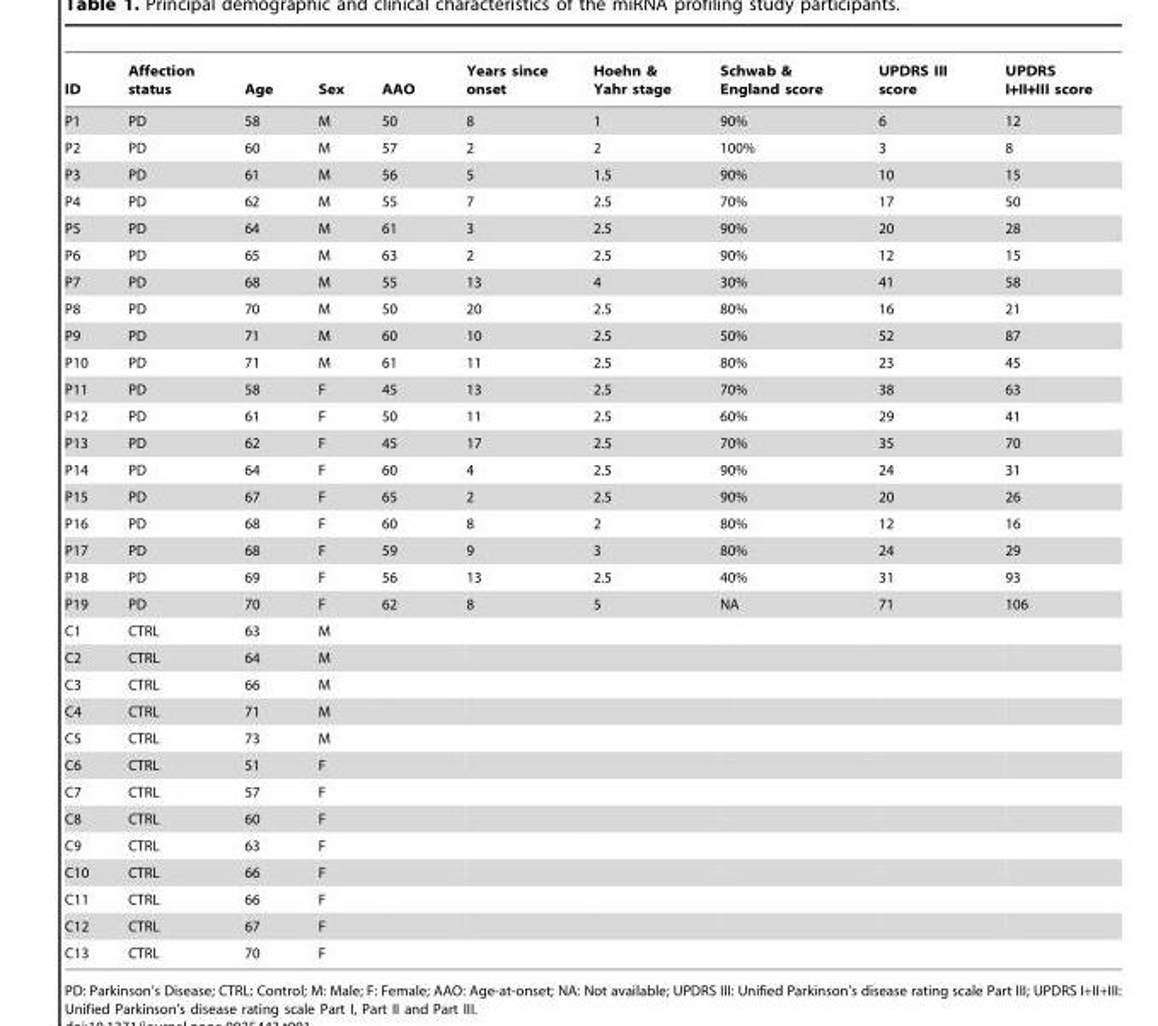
<table><thead><tr><td>ID</td><td>Affection status</td><td>Age</td><td>Sex</td><td>AAO</td><td>Years since onset</td><td>Hoehn &amp; Yahr stage</td><td>Schwab &amp; England score</td><td>UPDRS III score</td><td>UPDRS I+II+III score</td></tr></thead><tbody><tr><td>P1</td><td>PD</td><td>58</td><td>M</td><td>50</td><td>8</td><td>1</td><td>90%</td><td>6</td><td>12</td></tr><tr><td>P2</td><td>PD</td><td>60</td><td>M</td><td>57</td><td>2</td><td>2</td><td>100%</td><td>3</td><td>8</td></tr><tr><td>P3</td><td>PD</td><td>61</td><td>M</td><td>56</td><td>5</td><td>1.5</td><td>90%</td><td>10</td><td>15</td></tr><tr><td>P4</td><td>PD</td><td>62</td><td>M</td><td>55</td><td>7</td><td>2.5</td><td>70%</td><td>17</td><td>50</td></tr><tr><td>P5</td><td>PD</td><td>64</td><td>M</td><td>61</td><td>3</td><td>2.5</td><td>90%</td><td>20</td><td>28</td></tr><tr><td>P6</td><td>PD</td><td>65</td><td>M</td><td>63</td><td>2</td><td>2.5</td><td>90%</td><td>12</td><td>15</td></tr><tr><td>P7</td><td>PD</td><td>68</td><td>M</td><td>55</td><td>13</td><td>4</td><td>30%</td><td>41</td><td>58</td></tr><tr><td>P8</td><td>PD</td><td>70</td><td>M</td><td>50</td><td>20</td><td>2.5</td><td>80%</td><td>16</td><td>21</td></tr><tr><td>P9</td><td>PD</td><td>71</td><td>M</td><td>60</td><td>10</td><td>2.5</td><td>50%</td><td>52</td><td>87</td></tr><tr><td>P10</td><td>PD</td><td>71</td><td>M</td><td>61</td><td>11</td><td>2.5</td><td>80%</td><td>23</td><td>45</td></tr><tr><td>P11</td><td>PD</td><td>58</td><td>F</td><td>45</td><td>13</td><td>2.5</td><td>70%</td><td>38</td><td>63</td></tr><tr><td>P12</td><td>PD</td><td>61</td><td>F</td><td>50</td><td>11</td><td>2.5</td><td>60%</td><td>29</td><td>41</td></tr><tr><td>P13</td><td>PD</td><td>62</td><td>F</td><td>45</td><td>17</td><td>2.5</td><td>70%</td><td>35</td><td>70</td></tr><tr><td>P14</td><td>PD</td><td>64</td><td>F</td><td>60</td><td>4</td><td>2.5</td><td>90%</td><td>24</td><td>31</td></tr><tr><td>P15</td><td>PD</td><td>67</td><td>F</td><td>65</td><td>2</td><td>2.5</td><td>90%</td><td>20</td><td>26</td></tr><tr><td>P16</td><td>PD</td><td>68</td><td>F</td><td>60</td><td>8</td><td>2</td><td>80%</td><td>12</td><td>16</td></tr><tr><td>P17</td><td>PD</td><td>68</td><td>F</td><td>59</td><td>9</td><td>3</td><td>80%</td><td>24</td><td>29</td></tr><tr><td>P18</td><td>PD</td><td>69</td><td>F</td><td>56</td><td>13</td><td>2.5</td><td>40%</td><td>31</td><td>93</td></tr><tr><td>P19</td><td>PD</td><td>70</td><td>F</td><td>62</td><td>8</td><td>5</td><td>NA</td><td>71</td><td>106</td></tr><tr><td>C1</td><td>CTRL</td><td>63</td><td>M</td><td></td><td></td><td></td><td></td><td></td><td></td></tr><tr><td>C2</td><td>CTRL</td><td>64</td><td>M</td><td></td><td></td><td></td><td></td><td></td><td></td></tr><tr><td>C3</td><td>CTRL</td><td>66</td><td>M</td><td></td><td></td><td></td><td></td><td></td><td></td></tr><tr><td>C4</td><td>CTRL</td><td>71</td><td>M</td><td></td><td></td><td></td><td></td><td></td><td></td></tr><tr><td>C5</td><td>CTRL</td><td>73</td><td>M</td><td></td><td></td><td></td><td></td><td></td><td></td></tr><tr><td>C6</td><td>CTRL</td><td>51</td><td>F</td><td></td><td></td><td></td><td></td><td></td><td></td></tr><tr><td>C7</td><td>CTRL</td><td>57</td><td>F</td><td></td><td></td><td></td><td></td><td></td><td></td></tr><tr><td>C8</td><td>CTRL</td><td>60</td><td>F</td><td></td><td></td><td></td><td></td><td></td><td></td></tr><tr><td>C9</td><td>CTRL</td><td>63</td><td>F</td><td></td><td></td><td></td><td></td><td></td><td></td></tr><tr><td>C10</td><td>CTRL</td><td>66</td><td>F</td><td></td><td></td><td></td><td></td><td></td><td></td></tr><tr><td>C11</td><td>CTRL</td><td>66</td><td>F</td><td></td><td></td><td></td><td></td><td></td><td></td></tr><tr><td>C12</td><td>CTRL</td><td>67</td><td>F</td><td></td><td></td><td></td><td></td><td></td><td></td></tr><tr><td>C13</td><td>CTRL</td><td>70</td><td>F</td><td></td><td></td><td></td><td></td><td></td><td></td></tr></tbody></table>